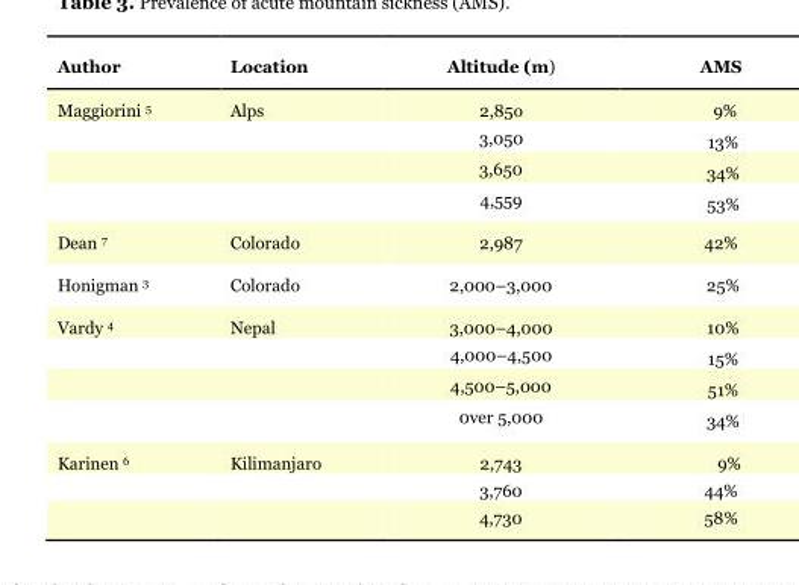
<table><thead><tr><td>Author</td><td>Location</td><td>Altitude (m)</td><td>AMS</td></tr></thead><tbody><tr><td rowspan="4">Maggiorini 5</td><td>Alps</td><td>2,85o</td><td>9%</td></tr><tr><td></td><td>3,050</td><td>13%</td></tr><tr><td></td><td>3,650</td><td>34%</td></tr><tr><td></td><td>4,559</td><td>53%</td></tr><tr><td>Dean 7</td><td>Colorado</td><td>2,987</td><td>42%</td></tr><tr><td>Honigman 3</td><td>Colorado</td><td>2,000–3,000</td><td>25%</td></tr><tr><td rowspan="4">Vardy 4</td><td>Nepal</td><td>3,000–4,000</td><td>10%</td></tr><tr><td></td><td>4,000–4,500</td><td>15%</td></tr><tr><td></td><td>4,500–5,000</td><td>51%</td></tr><tr><td></td><td>0ver 5,000</td><td>34%</td></tr><tr><td rowspan="3">Karinen 6</td><td>Kilimanjaro</td><td>2,743</td><td>9%</td></tr><tr><td></td><td>3,760</td><td>44%</td></tr><tr><td></td><td>4,730</td><td>58%</td></tr></tbody></table>